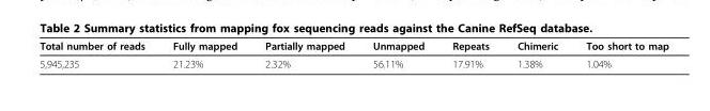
<table><thead><tr><td>Total number of reads</td><td>Fully mapped</td><td>Partially mapped</td><td>Unmapped</td><td>Repeats</td><td>Chimeric</td><td>Too short to map</td></tr></thead><tbody><tr><td>5,945,235</td><td>21.23%</td><td>2.32%</td><td>56.11%</td><td>17.91%</td><td>1.38%</td><td>1.04%</td></tr></tbody></table>